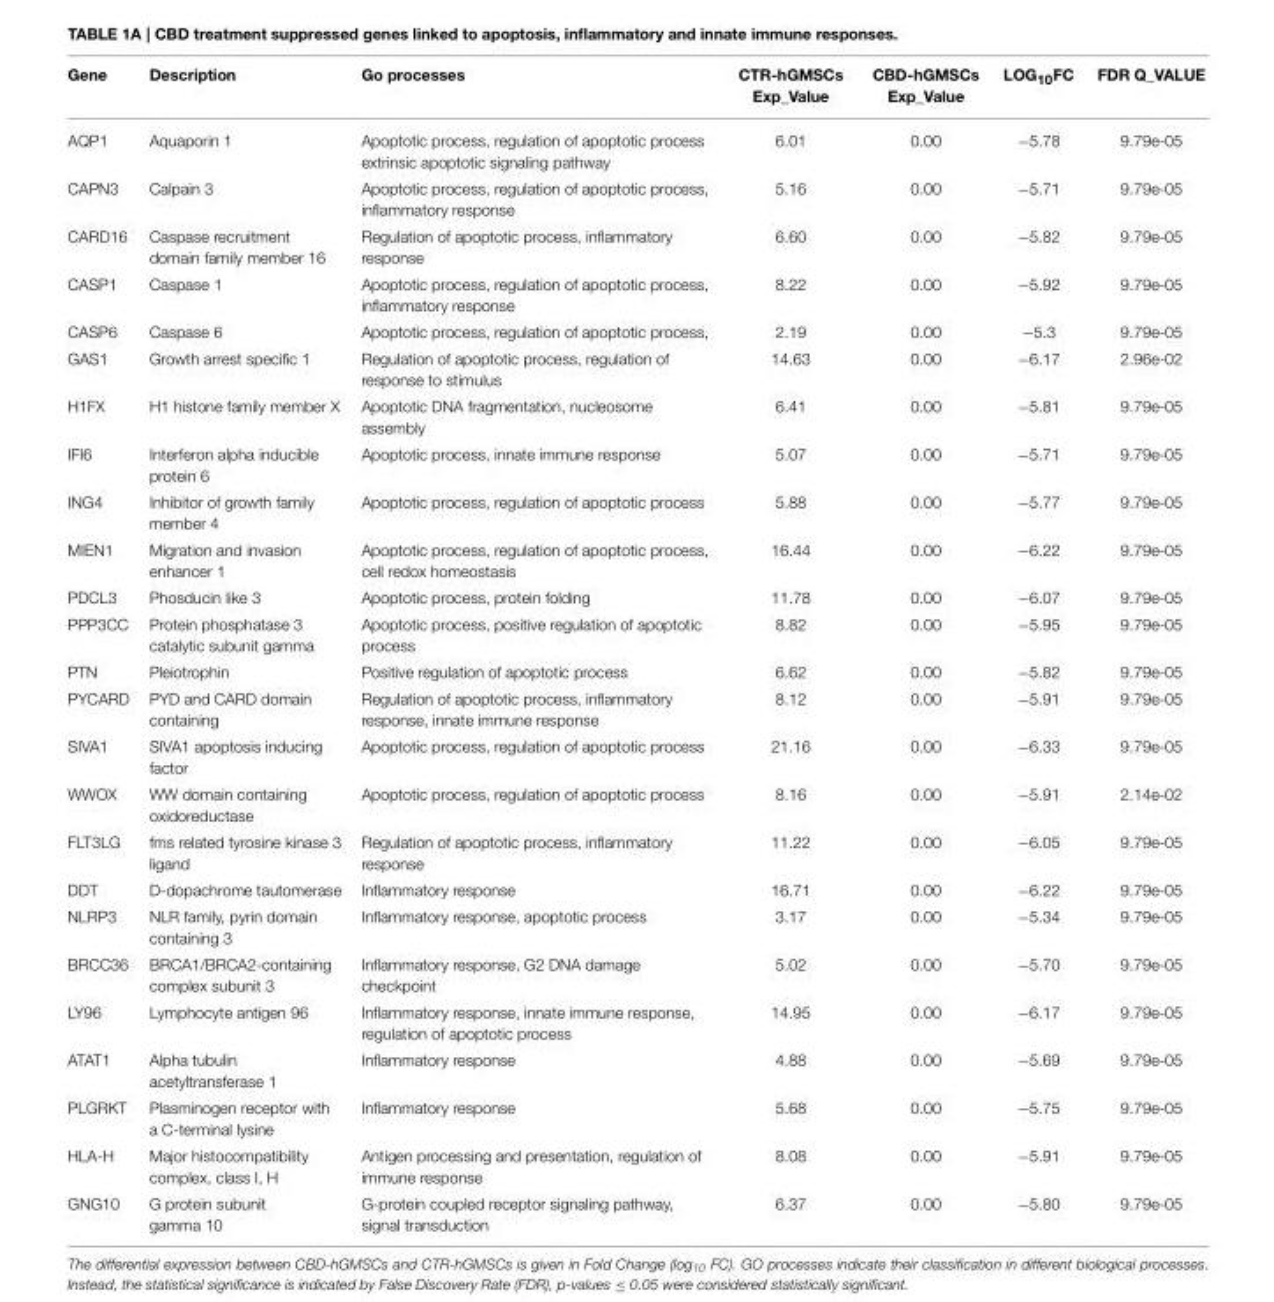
<table><thead><tr><td>Gene</td><td>Description</td><td>Go processes</td><td>CTR-hGMSCs Exp_Value</td><td>CBD-hGMSCs Exp_Value</td><td>LOG<sub>10</sub>FC</td><td>FDR Q_VALUE</td></tr></thead><tbody><tr><td>AQP1</td><td>Aquaporin 1</td><td>Apoptotic process, regulation of apoptotic process extrinsic apoptotic signaling pathway</td><td>6.01</td><td>0.00</td><td>−5.78</td><td>9.79e-05</td></tr><tr><td>CAPN3</td><td>Calpain 3</td><td>Apoptotic process, regulation of apoptotic process, inflammatory response</td><td>5.16</td><td>0.00</td><td>−5.71</td><td>9.79e-05</td></tr><tr><td>CARD16</td><td>Caspase recruitment domain family member 16</td><td>Regulation of apoptotic process, inflammatory response</td><td>6.60</td><td>0.00</td><td>−5.82</td><td>9.79e-05</td></tr><tr><td>CASP1</td><td>Caspase 1</td><td>Apoptotic process, regulation of apoptotic process, inflammatory response</td><td>8.22</td><td>0.00</td><td>−5.92</td><td>9.79e-05</td></tr><tr><td>CASP6</td><td>Caspase 6</td><td>Apoptotic process, regulation of apoptotic process,</td><td>2.19</td><td>0.00</td><td>−5.3</td><td>9.79e-05</td></tr><tr><td>GAS1</td><td>Growth arrest specific 1</td><td>Regulation of apoptotic process, regulation of response to stimulus</td><td>14.63</td><td>0.00</td><td>−6.17</td><td>2.96e-02</td></tr><tr><td>H1FX</td><td>H1 histone family member X</td><td>Apoptotic DNA fragmentation, nucleosome assembly</td><td>6.41</td><td>0.00</td><td>−5.81</td><td>9.79e-05</td></tr><tr><td>IFI6</td><td>Interferon alpha inducible protein 6</td><td>Apoptotic process, innate immune response</td><td>5.07</td><td>0.00</td><td>−5.71</td><td>9.79e-05</td></tr><tr><td>ING4</td><td>Inhibitor of growth family member 4</td><td>Apoptotic process, regulation of apoptotic process</td><td>5.88</td><td>0.00</td><td>−5.77</td><td>9.79e-05</td></tr><tr><td>MIEN1</td><td>Migration and invasion enhancer 1</td><td>Apoptotic process, regulation of apoptotic process, cell redox homeostasis</td><td>16.44</td><td>0.00</td><td>−6.22</td><td>9.79e-05</td></tr><tr><td>PDCL3</td><td>Phosducin like 3</td><td>Apoptotic process, protein folding</td><td>11.78</td><td>0.00</td><td>−6.07</td><td>9.79e-05</td></tr><tr><td>PPP3CC</td><td>Protein phosphatase 3 catalytic subunit gamma</td><td>Apoptotic process, positive regulation of apoptotic process</td><td>8.82</td><td>0.00</td><td>−5.95</td><td>9.79e-05</td></tr><tr><td>PTN</td><td>Pleiotrophin</td><td>Positive regulation of apoptotic process</td><td>6.62</td><td>0.00</td><td>−5.82</td><td>9.79e-05</td></tr><tr><td>PYCARD</td><td>PYD and CARD domain containing</td><td>Regulation of apoptotic process, inflammatory response, innate immune response</td><td>8.12</td><td>0.00</td><td>−5.91</td><td>9.79e-05</td></tr><tr><td>SIVA1</td><td>SIVA1 apoptosis inducing factor</td><td>Apoptotic process, regulation of apoptotic process</td><td>21.16</td><td>0.00</td><td>−6.33</td><td>9.79e-05</td></tr><tr><td>WWOX</td><td>WW domain containing oxidoreductase</td><td>Apoptotic process, regulation of apoptotic process</td><td>8.16</td><td>0.00</td><td>−5.91</td><td>2.14e-02</td></tr><tr><td>FLT3LG</td><td>fms related tyrosine kinase 3 ligand</td><td>Regulation of apoptotic process, inflammatory response</td><td>11.22</td><td>0.00</td><td>−6.05</td><td>9.79e-05</td></tr><tr><td>DDT</td><td>D-dopachrome tautomerase</td><td>Inflammatory response</td><td>16.71</td><td>0.00</td><td>−6.22</td><td>9.79e-05</td></tr><tr><td>NLRP3</td><td>NLR family, pyrin domain containing 3</td><td>Inflammatory response, apoptotic process</td><td>3.17</td><td>0.00</td><td>−5.34</td><td>9.79e-05</td></tr><tr><td>BRCC36</td><td>BRCA1/BRCA2-containing complex subunit 3</td><td>Inflammatory response, G2 DNA damage checkpoint</td><td>5.02</td><td>0.00</td><td>−5.70</td><td>9.79e-05</td></tr><tr><td>LY96</td><td>Lymphocyte antigen 96</td><td>Inflammatory response, innate immune response, regulation of apoptotic process</td><td>14.95</td><td>0.00</td><td>−6.17</td><td>9.79e-05</td></tr><tr><td>ATAT1</td><td>Alpha tubulin acetyltransferase 1</td><td>Inflammatory response</td><td>4.88</td><td>0.00</td><td>−5.69</td><td>9.79e-05</td></tr><tr><td>PLGRKT</td><td>Plasminogen receptor with a C-terminal lysine</td><td>Inflammatory response</td><td>5.68</td><td>0.00</td><td>−5.75</td><td>9.79e-05</td></tr><tr><td>HLA-H</td><td>Major histocompatibility complex, class I, H</td><td>Antigen processing and presentation, regulation of immune response</td><td>8.08</td><td>0.00</td><td>−5.91</td><td>9.79e-05</td></tr><tr><td>GNG10</td><td>G protein subunit gamma 10</td><td>G-protein coupled receptor signaling pathway, signal transduction</td><td>6.37</td><td>0.00</td><td>−5.80</td><td>9.79e-05</td></tr></tbody></table>